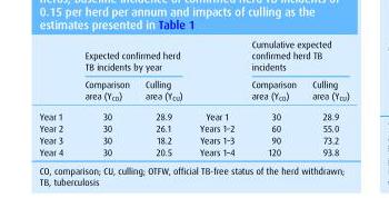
<table><thead><tr><td rowspan="2"></td><td colspan="2">Expected confirmed herd TB incidents by year</td><td rowspan="2"></td><td colspan="2">Cumulative expected confirmed herd TB incidents</td></tr><tr><td>Comparison area (Y<sub>CO</sub>)</td><td>Culling area (Y<sub>CU</sub>)</td><td>Comparison area (Y<sub>CO</sub>)</td><td>Culling area (Y<sub>CU</sub>)</td></tr></thead><tbody><tr><td>Year 1</td><td>30</td><td>28.9</td><td>Year 1</td><td>30</td><td>28.9</td></tr><tr><td>Year 2</td><td>30</td><td>26.1</td><td>Years 1–2</td><td>60</td><td>55.0</td></tr><tr><td>Year 3</td><td>30</td><td>18.2</td><td>Years 1–3</td><td>90</td><td>73.2</td></tr><tr><td>Year 4</td><td>30</td><td>20.5</td><td>Years 1–4</td><td>120</td><td>93.8</td></tr></tbody></table>